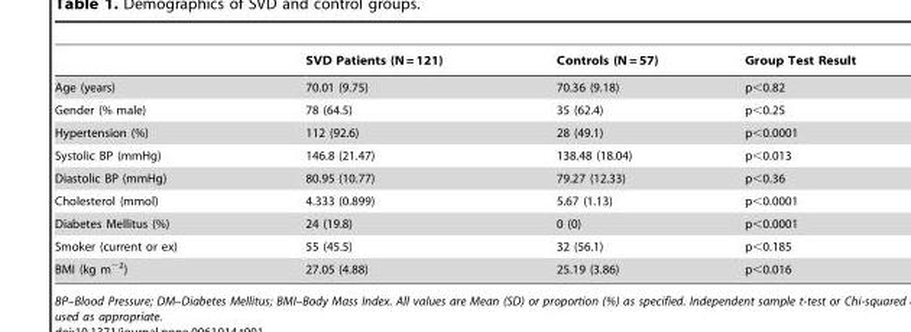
<table><thead><tr><td></td><td>SVD Patients (N = 121)</td><td>Controls (N = 57)</td><td>Group Test Result</td></tr></thead><tbody><tr><td>Age (years)</td><td>70.01 (9.75)</td><td>70.36 (9.18)</td><td>p&lt;0.82</td></tr><tr><td>Gender (% male)</td><td>78 (64.5)</td><td>35 (62.4)</td><td>p&lt;0.25</td></tr><tr><td>Hypertension (%)</td><td>112 (92.6)</td><td>28 (49.1)</td><td>p&lt;0.0001</td></tr><tr><td>Systolic BP (mmHg)</td><td>146.8 (21.47)</td><td>138.48 (18.04)</td><td>p&lt;0.013</td></tr><tr><td>Diastolic BP (mmHg)</td><td>80.95 (10.77)</td><td>79.27 (12.33)</td><td>p&lt;0.36</td></tr><tr><td>Cholesterol (mmol)</td><td>4.333 (0.899)</td><td>5.67 (1.13)</td><td>p&lt;0.0001</td></tr><tr><td>Diabetes Mellitus (%)</td><td>24 (19.8)</td><td>0 (0)</td><td>p&lt;0.0001</td></tr><tr><td>Smoker (current or ex)</td><td>55 (45.5)</td><td>32 (56.1)</td><td>p&lt;0.185</td></tr><tr><td>BMI (kg m<sup>−2</sup>)</td><td>27.05 (4.88)</td><td>25.19 (3.86)</td><td>p&lt;0.016</td></tr></tbody></table>